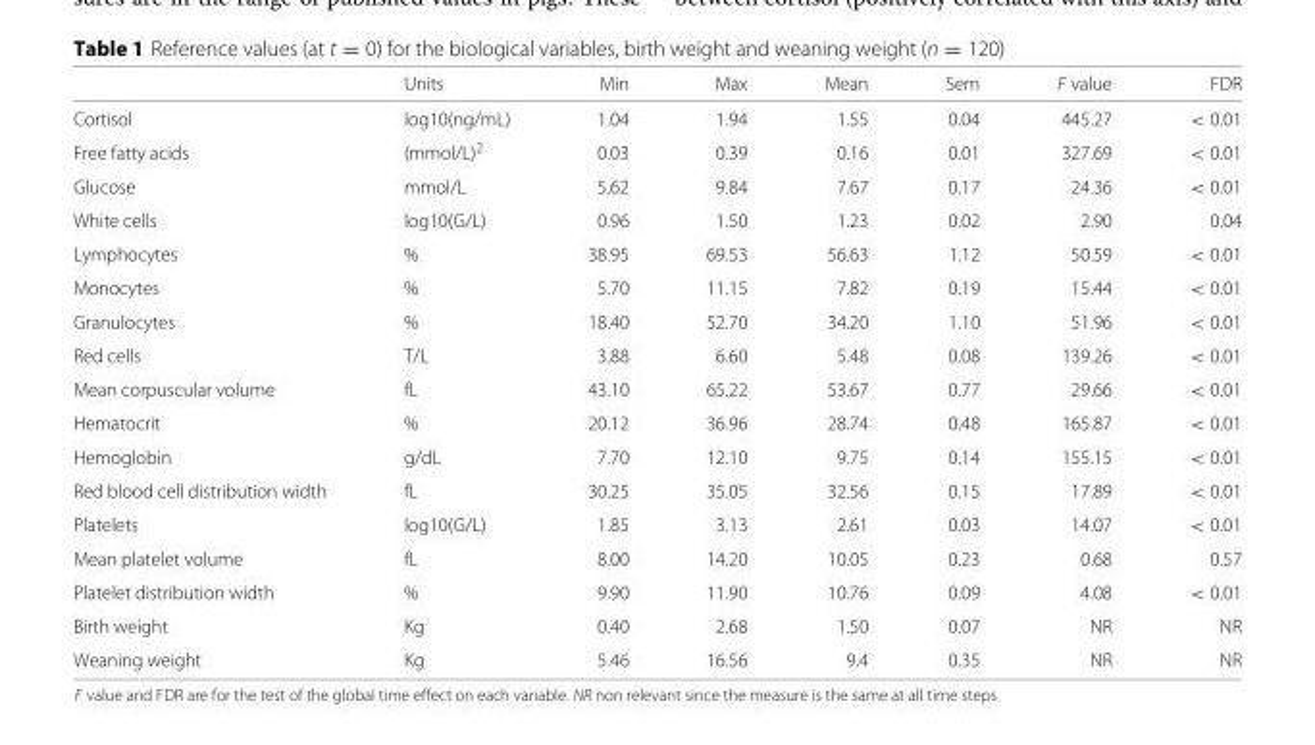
<table><thead><tr><td></td><td>Units</td><td>Min</td><td>Max</td><td>Mean</td><td>Sem</td><td>F value</td><td>FDR</td></tr></thead><tbody><tr><td>Cortisol</td><td>log10(ng/mL)</td><td>1.04</td><td>1.94</td><td>1.55</td><td>0.04</td><td>445.27</td><td>&lt; 0.01</td></tr><tr><td>Free fatty acids</td><td>(mmol/L)<sup>2</sup></td><td>0.03</td><td>0.39</td><td>0.16</td><td>0.01</td><td>327.69</td><td>&lt; 0.01</td></tr><tr><td>Glucose</td><td>mmol/L</td><td>5.62</td><td>9.84</td><td>7.67</td><td>0.17</td><td>24.36</td><td>&lt; 0.01</td></tr><tr><td>White cells</td><td>log10(G/L)</td><td>0.96</td><td>1.50</td><td>1.23</td><td>0.02</td><td>2.90</td><td>0.04</td></tr><tr><td>Lymphocytes</td><td>%</td><td>38.95</td><td>69.53</td><td>56.63</td><td>1.12</td><td>50.59</td><td>&lt; 0.01</td></tr><tr><td>Monocytes</td><td>%</td><td>5.70</td><td>11.15</td><td>7.82</td><td>0.19</td><td>15.44</td><td>&lt; 0.01</td></tr><tr><td>Granulocytes</td><td>%</td><td>18.40</td><td>52.70</td><td>34.20</td><td>1.10</td><td>51.96</td><td>&lt; 0.01</td></tr><tr><td>Red cells</td><td>T/L</td><td>3.88</td><td>6.60</td><td>5.48</td><td>0.08</td><td>139.26</td><td>&lt; 0.01</td></tr><tr><td>Mean corpuscular volume</td><td>fL</td><td>43.10</td><td>65.22</td><td>53.67</td><td>0.77</td><td>29.66</td><td>&lt; 0.01</td></tr><tr><td>Hematocrit</td><td>%</td><td>20.12</td><td>36.96</td><td>28.74</td><td>0.48</td><td>165.87</td><td>&lt; 0.01</td></tr><tr><td>Hemoglobin</td><td>g/dL</td><td>7.70</td><td>12.10</td><td>9.75</td><td>0.14</td><td>155.15</td><td>&lt; 0.01</td></tr><tr><td>Red blood cell distribution width</td><td>fL</td><td>30.25</td><td>35.05</td><td>32.56</td><td>0.15</td><td>17.89</td><td>&lt; 0.01</td></tr><tr><td>Platelets</td><td>log10(G/L)</td><td>1.85</td><td>3.13</td><td>2.61</td><td>0.03</td><td>14.07</td><td>&lt; 0.01</td></tr><tr><td>Mean platelet volume</td><td>fL</td><td>8.00</td><td>14.20</td><td>10.05</td><td>0.23</td><td>0.68</td><td>0.57</td></tr><tr><td>Platelet distribution width</td><td>%</td><td>9.90</td><td>11.90</td><td>10.76</td><td>0.09</td><td>4.08</td><td>&lt; 0.01</td></tr><tr><td>Birth weight</td><td>Kg</td><td>0.40</td><td>2.68</td><td>1.50</td><td>0.07</td><td>NR</td><td>NR</td></tr><tr><td>Weaning weight</td><td>Kg</td><td>5.46</td><td>16.56</td><td>9.4</td><td>0.35</td><td>NR</td><td>NR</td></tr></tbody></table>